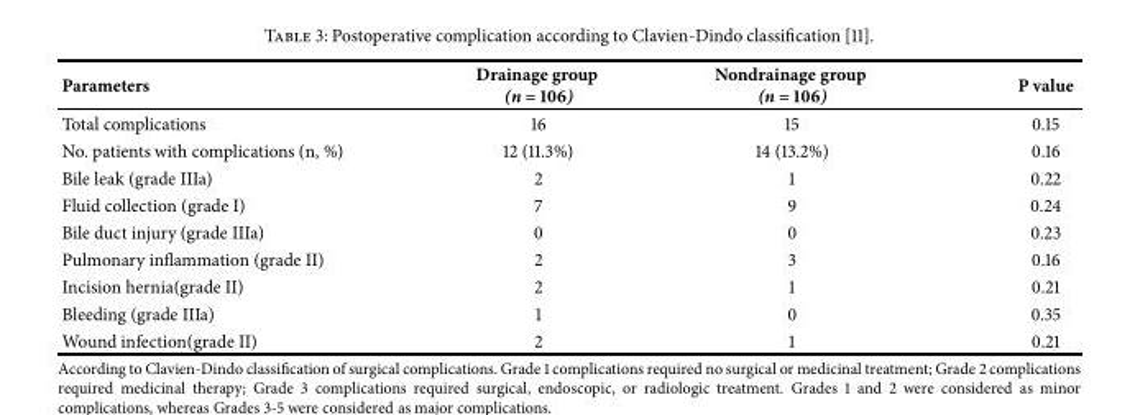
<table><thead><tr><td>Parameters</td><td>Drainage group (n = 106)</td><td>Nondrainage group (n = 106)</td><td>P value</td></tr></thead><tbody><tr><td>Total complications</td><td>16</td><td>15</td><td>0.15</td></tr><tr><td>No. patients with complications (n, %)</td><td>12 (11.3%)</td><td>14 (13.2%)</td><td>0.16</td></tr><tr><td>Bile leak (grade IIIa)</td><td>2</td><td>1</td><td>0.22</td></tr><tr><td>Fluid collection (grade I)</td><td>7</td><td>9</td><td>0.24</td></tr><tr><td>Bile duct injury (grade IIIa)</td><td>0</td><td>0</td><td>0.23</td></tr><tr><td>Pulmonary inflammation (grade II)</td><td>2</td><td>3</td><td>0.16</td></tr><tr><td>Incision hernia(grade II)</td><td>2</td><td>1</td><td>0.21</td></tr><tr><td>Bleeding (grade IIIa)</td><td>1</td><td>0</td><td>0.35</td></tr><tr><td>Wound infection(grade II)</td><td>2</td><td>1</td><td>0.21</td></tr></tbody></table>